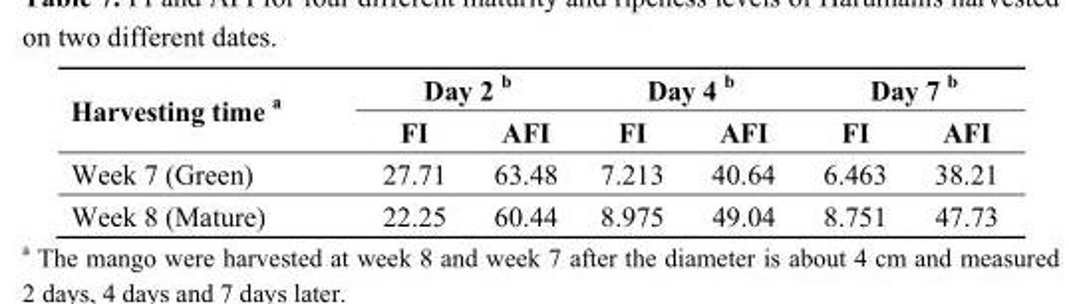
<table><thead><tr><td rowspan="2">Harvesting time <sup>a</sup></td><td colspan="2">Day 2 <sup>b</sup></td><td colspan="2">Day 4 <sup>b</sup></td><td colspan="2">Day 7 <sup>b</sup></td></tr><tr><td>FI</td><td>AFI</td><td>FI</td><td>AFI</td><td>FI</td><td>AFI</td></tr></thead><tbody><tr><td>Week 7 (Green)</td><td>27.71</td><td>63.48</td><td>7.213</td><td>40.64</td><td>6.463</td><td>38.21</td></tr><tr><td>Week 8 (Mature)</td><td>22.25</td><td>60.44</td><td>8.975</td><td>49.04</td><td>8.751</td><td>47.73</td></tr></tbody></table>